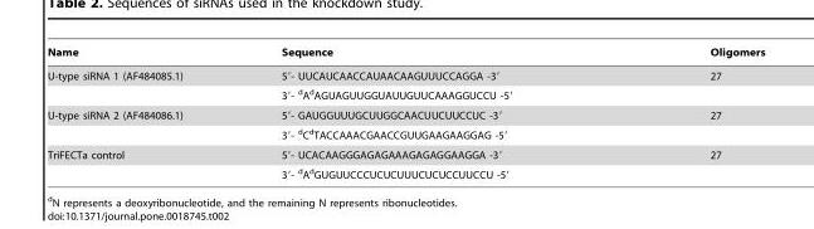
<table><thead><tr><td>Name</td><td>Sequence</td><td>Oligomers</td></tr></thead><tbody><tr><td rowspan="2">U-type siRNA 1 (AF484085.1)</td><td>5′- UUCAUCAACCAUAACAAGUUUCCAGGA -3′</td><td>27</td></tr><tr><td>3′- dA<sup>d</sup>AGUAGUUGGUAUUGUUCAAAGGUCCU -5′</td><td></td></tr><tr><td rowspan="2">U-type siRNA 2 (AF484086.1)</td><td>5′- GAUGGUUUGCUUGGCAACUUCUUCCUC -3′</td><td>27</td></tr><tr><td>3′- dC<sup>d</sup>TACCAAACGAACCGUUGAAGAAGGAG -5′</td><td></td></tr><tr><td rowspan="2">TriFECTa control</td><td>5′- UCACAAGGGAGAGAAAGAGAGGAAGGA -3′</td><td>27</td></tr><tr><td>3′- dA<sup>d</sup>GUGUUCCCUCUCUUUCUCUCCUUCCU -5′</td><td></td></tr></tbody></table>